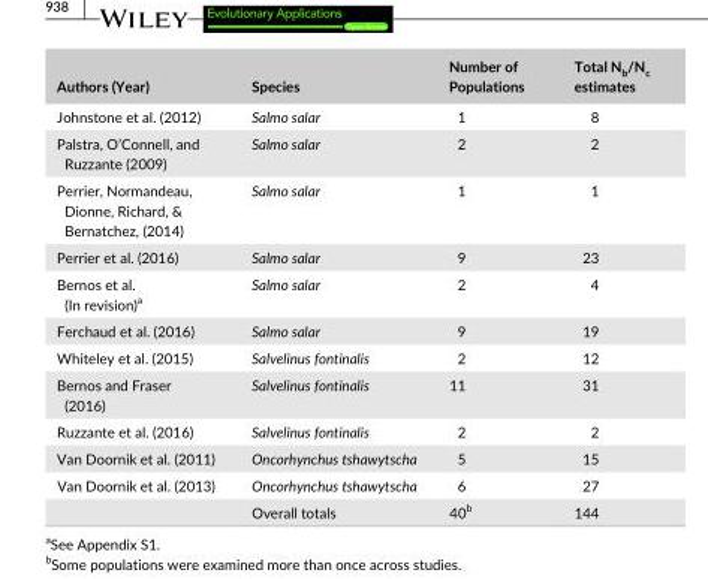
<table><thead><tr><td>Authors (Year)</td><td>Species</td><td>Number of Populations</td><td>Total N<sub>b</sub>/N<sub>c</sub> estimates</td></tr></thead><tbody><tr><td>Johnstone et al. (2012)</td><td>Salmo salar</td><td>1</td><td>8</td></tr><tr><td>Palstra, O’Connell, and Ruzzante (2009)</td><td>Salmo salar</td><td>2</td><td>2</td></tr><tr><td>Perrier, Normandeau, Dionne, Richard, &amp; Bernatchez, (2014)</td><td>Salmo salar</td><td>1</td><td>1</td></tr><tr><td>Perrier et al. (2016)</td><td>Salmo salar</td><td>9</td><td>23</td></tr><tr><td>Bernos et al. (In revision)<sup>a</sup></td><td>Salmo salar</td><td>2</td><td>4</td></tr><tr><td>Ferchaud et al. (2016)</td><td>Salmo salar</td><td>9</td><td>19</td></tr><tr><td>Whiteley et al. (2015)</td><td>Salvelinus fontinalis</td><td>2</td><td>12</td></tr><tr><td>Bernos and Fraser (2016)</td><td>Salvelinus fontinalis</td><td>11</td><td>31</td></tr><tr><td>Ruzzante et al. (2016)</td><td>Salvelinus fontinalis</td><td>2</td><td>2</td></tr><tr><td>Van Doornik et al. (2011)</td><td>Oncorhynchus tshawytscha</td><td>5</td><td>15</td></tr><tr><td rowspan="2">Van Doornik et al. (2013)</td><td>Oncorhynchus tshawytscha</td><td>6</td><td>27</td></tr><tr><td>Overall totals</td><td>40<sup>b</sup></td><td>144</td></tr></tbody></table>